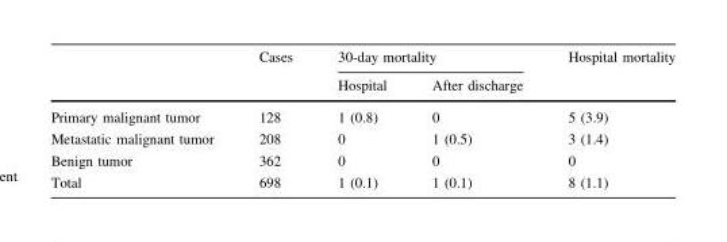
<table><thead><tr><td rowspan="2"></td><td rowspan="2">Cases</td><td colspan="2">30-day mortality</td><td rowspan="2">Hospital mortality</td></tr><tr><td>Hospital</td><td>After discharge</td></tr></thead><tbody><tr><td>Primary malignant tumor</td><td>128</td><td>1 (0.8)</td><td>0</td><td>5 (3.9)</td></tr><tr><td>Metastatic malignant tumor</td><td>208</td><td>0</td><td>1 (0.5)</td><td>3 (1.4)</td></tr><tr><td>Benign tumor</td><td>362</td><td>0</td><td>0</td><td>0</td></tr><tr><td>Total</td><td>698</td><td>1 (0.1)</td><td>1 (0.1)</td><td>8 (1.1)</td></tr></tbody></table>